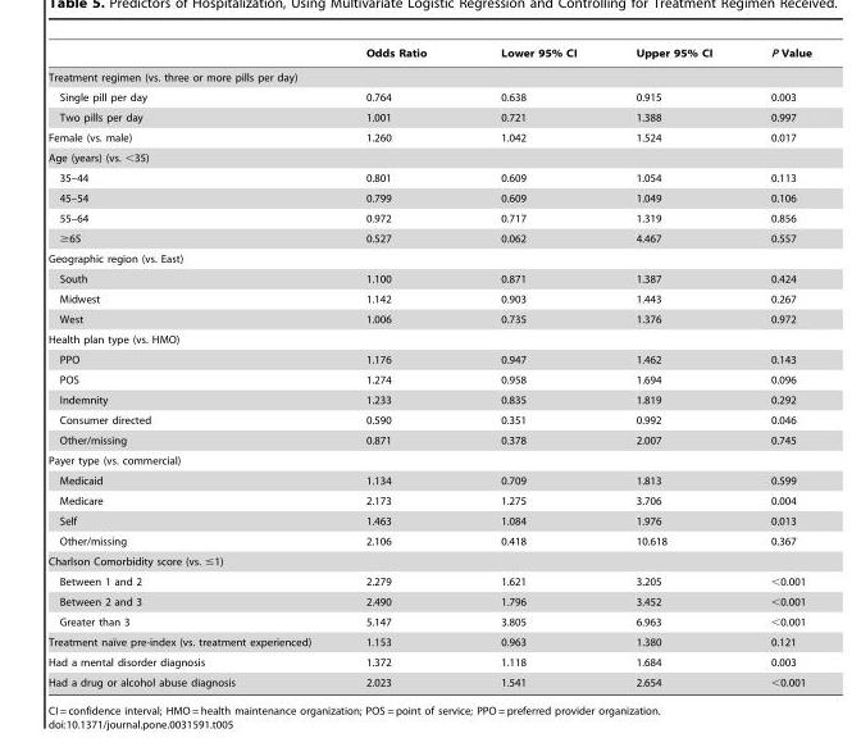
<table><thead><tr><td></td><td>Odds Ratio</td><td>Lower 95% CI</td><td>Upper 95% CI</td><td>P Value</td></tr></thead><tbody><tr><td colspan="5">Treatment regimen (vs. three or more pills per day)</td></tr><tr><td>Single pill per day</td><td>0.764</td><td>0.638</td><td>0.915</td><td>0.003</td></tr><tr><td>Two pills per day</td><td>1.001</td><td>0.721</td><td>1.388</td><td>0.997</td></tr><tr><td>Female (vs. male)</td><td>1.260</td><td>1.042</td><td>1.524</td><td>0.017</td></tr><tr><td colspan="5">Age (years) (vs. &lt;35)</td></tr><tr><td>35–44</td><td>0.801</td><td>0.609</td><td>1.054</td><td>0.113</td></tr><tr><td>45–54</td><td>0.799</td><td>0.609</td><td>1.049</td><td>0.106</td></tr><tr><td>55–64</td><td>0.972</td><td>0.717</td><td>1.319</td><td>0.856</td></tr><tr><td>≥65</td><td>0.527</td><td>0.062</td><td>4.467</td><td>0.557</td></tr><tr><td colspan="5">Geographic region (vs. East)</td></tr><tr><td>South</td><td>1.100</td><td>0.871</td><td>1.387</td><td>0.424</td></tr><tr><td>Midwest</td><td>1.142</td><td>0.903</td><td>1.443</td><td>0.267</td></tr><tr><td>West</td><td>1.006</td><td>0.735</td><td>1.376</td><td>0.972</td></tr><tr><td colspan="5">Health plan type (vs. HMO)</td></tr><tr><td>PPO</td><td>1.176</td><td>0.947</td><td>1.462</td><td>0.143</td></tr><tr><td>POS</td><td>1.274</td><td>0.958</td><td>1.694</td><td>0.096</td></tr><tr><td>Indemnity</td><td>1.233</td><td>0.835</td><td>1.819</td><td>0.292</td></tr><tr><td>Consumer directed</td><td>0.590</td><td>0.351</td><td>0.992</td><td>0.046</td></tr><tr><td>Other/missing</td><td>0.871</td><td>0.378</td><td>2.007</td><td>0.745</td></tr><tr><td colspan="5">Payer type (vs. commercial)</td></tr><tr><td>Medicaid</td><td>1.134</td><td>0.709</td><td>1.813</td><td>0.599</td></tr><tr><td>Medicare</td><td>2.173</td><td>1.275</td><td>3.706</td><td>0.004</td></tr><tr><td>Self</td><td>1.463</td><td>1.084</td><td>1.976</td><td>0.013</td></tr><tr><td>Other/missing</td><td>2.106</td><td>0.418</td><td>10.618</td><td>0.367</td></tr><tr><td colspan="5">Charlson Comorbidity score (vs. ≤1)</td></tr><tr><td>Between 1 and 2</td><td>2.279</td><td>1.621</td><td>3.205</td><td>&lt;0.001</td></tr><tr><td>Between 2 and 3</td><td>2.490</td><td>1.796</td><td>3.452</td><td>&lt;0.001</td></tr><tr><td>Greater than 3</td><td>5.147</td><td>3.805</td><td>6.963</td><td>&lt;0.001</td></tr><tr><td>Treatment naı¨ve pre-index (vs. treatment experienced)</td><td>1.153</td><td>0.963</td><td>1.380</td><td>0.121</td></tr><tr><td>Had a mental disorder diagnosis</td><td>1.372</td><td>1.118</td><td>1.684</td><td>0.003</td></tr><tr><td>Had a drug or alcohol abuse diagnosis</td><td>2.023</td><td>1.541</td><td>2.654</td><td>&lt;0.001</td></tr></tbody></table>